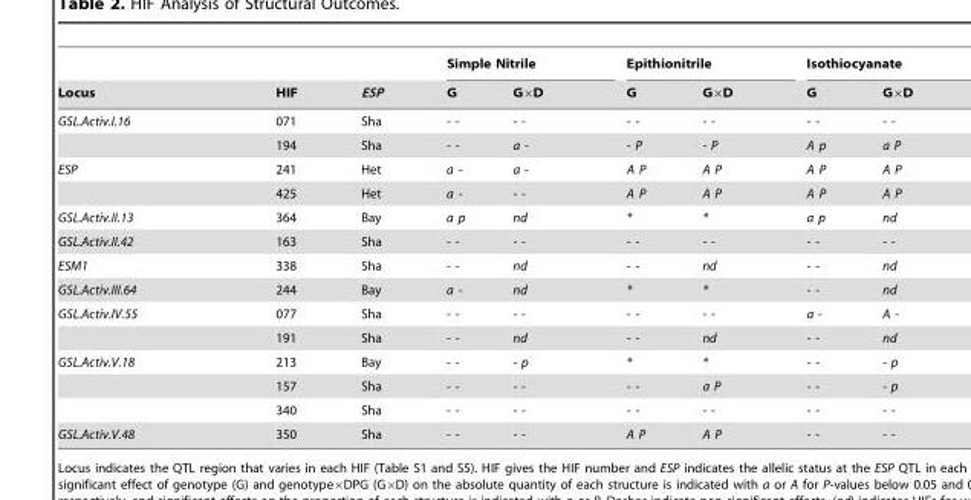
<table><thead><tr><td rowspan="2">Locus</td><td rowspan="2">HIF</td><td rowspan="2">ESP</td><td colspan="2">Simple Nitrile</td><td colspan="2">Epithionitrile</td><td colspan="2">Isothiocyanate</td></tr><tr><td>G</td><td>G×D</td><td>G</td><td>G×D</td><td>G</td><td>G×D</td></tr></thead><tbody><tr><td rowspan="2">GSL.Activ.I.16</td><td>071</td><td>Sha</td><td>- -</td><td>- -</td><td>- -</td><td>- -</td><td>- -</td><td>- -</td></tr><tr><td>194</td><td>Sha</td><td>- -</td><td>a -</td><td>- P</td><td>- P</td><td>A p</td><td>a P</td></tr><tr><td rowspan="2">ESP</td><td>241</td><td>Het</td><td>a -</td><td>a -</td><td>A P</td><td>A P</td><td>A P</td><td>A P</td></tr><tr><td>425</td><td>Het</td><td>a -</td><td>- -</td><td>A P</td><td>A P</td><td>A P</td><td>A P</td></tr><tr><td>GSL.Activ.II.13</td><td>364</td><td>Bay</td><td>a p</td><td>nd</td><td>*</td><td>*</td><td>a p</td><td>nd</td></tr><tr><td>GSL.Activ.II.42</td><td>163</td><td>Sha</td><td>- -</td><td>- -</td><td>- -</td><td>- -</td><td>- -</td><td>- -</td></tr><tr><td>ESM1</td><td>338</td><td>Sha</td><td>- -</td><td>nd</td><td>- -</td><td>nd</td><td>- -</td><td>nd</td></tr><tr><td>GSL.Activ.III.64</td><td>244</td><td>Bay</td><td>a -</td><td>nd</td><td>*</td><td>*</td><td>- -</td><td>nd</td></tr><tr><td rowspan="2">GSL.Activ.IV.55</td><td>077</td><td>Sha</td><td>- -</td><td>- -</td><td>- -</td><td>- -</td><td>a -</td><td>A -</td></tr><tr><td>191</td><td>Sha</td><td>- -</td><td>nd</td><td>- -</td><td>nd</td><td>- -</td><td>nd</td></tr><tr><td rowspan="3">GSL.Activ.V.18</td><td>213</td><td>Bay</td><td>- -</td><td>- p</td><td>*</td><td>*</td><td>- -</td><td>- p</td></tr><tr><td>157</td><td>Sha</td><td>- -</td><td>- -</td><td>- -</td><td>a P</td><td>- -</td><td>- p</td></tr><tr><td>340</td><td>Sha</td><td>- -</td><td>- -</td><td>- -</td><td>- -</td><td>- -</td><td>- -</td></tr><tr><td>GSL.Activ.V.48</td><td>350</td><td>Sha</td><td>- -</td><td>- -</td><td>A P</td><td>A P</td><td>- -</td><td>- -</td></tr></tbody></table>